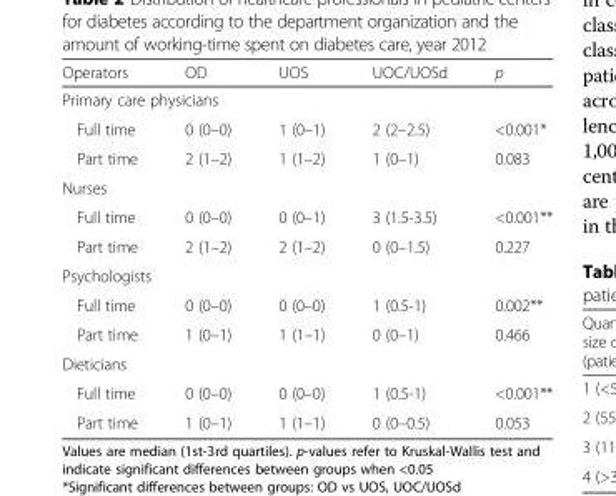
<table><thead><tr><td>Operators</td><td>OD</td><td>UOS</td><td>UOC/UOSd</td><td>p</td></tr></thead><tbody><tr><td colspan="5">Primary care physicians</td></tr><tr><td>Full time</td><td>0 (0–0)</td><td>1 (0–1)</td><td>2 (2–2.5)</td><td>&lt;0.001*</td></tr><tr><td>Part time</td><td>2 (1–2)</td><td>1 (1–2)</td><td>1 (0–1)</td><td>0.083</td></tr><tr><td colspan="5">Nurses</td></tr><tr><td>Full time</td><td>0 (0–0)</td><td>0 (0–1)</td><td>3 (1.5-3.5)</td><td>&lt;0.001**</td></tr><tr><td>Part time</td><td>2 (1–2)</td><td>2 (1–2)</td><td>0 (0–1.5)</td><td>0.227</td></tr><tr><td colspan="5">Psychologists</td></tr><tr><td>Full time</td><td>0 (0–0)</td><td>0 (0–0)</td><td>1 (0.5-1)</td><td>0.002**</td></tr><tr><td>Part time</td><td>1 (0–1)</td><td>1 (1–1)</td><td>0 (0–1)</td><td>0.466</td></tr><tr><td colspan="5">Dieticians</td></tr><tr><td>Full time</td><td>0 (0–0)</td><td>0 (0–0)</td><td>1 (0.5-1)</td><td>&lt;0.001**</td></tr><tr><td>Part time</td><td>1 (0–1)</td><td>1 (1–1)</td><td>0 (0–0.5)</td><td>0.053</td></tr></tbody></table>